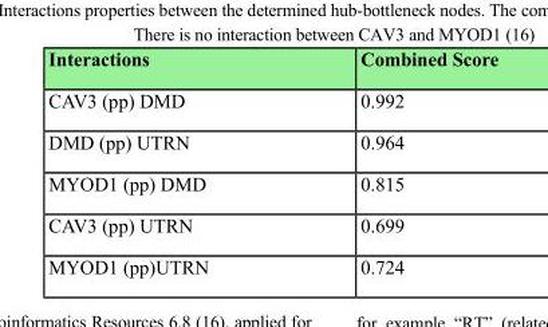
<table><thead><tr><td>Interactions</td><td>Combined Score</td></tr></thead><tbody><tr><td>CAV3 (pp) DMD</td><td>0.992</td></tr><tr><td>DMD (pp) UTRN</td><td>0.964</td></tr><tr><td>MYOD1 (pp) DMD</td><td>0.815</td></tr><tr><td>CAV3 (pp) UTRN</td><td>0.699</td></tr><tr><td>MYOD1 (pp)UTRN</td><td>0.724</td></tr></tbody></table>